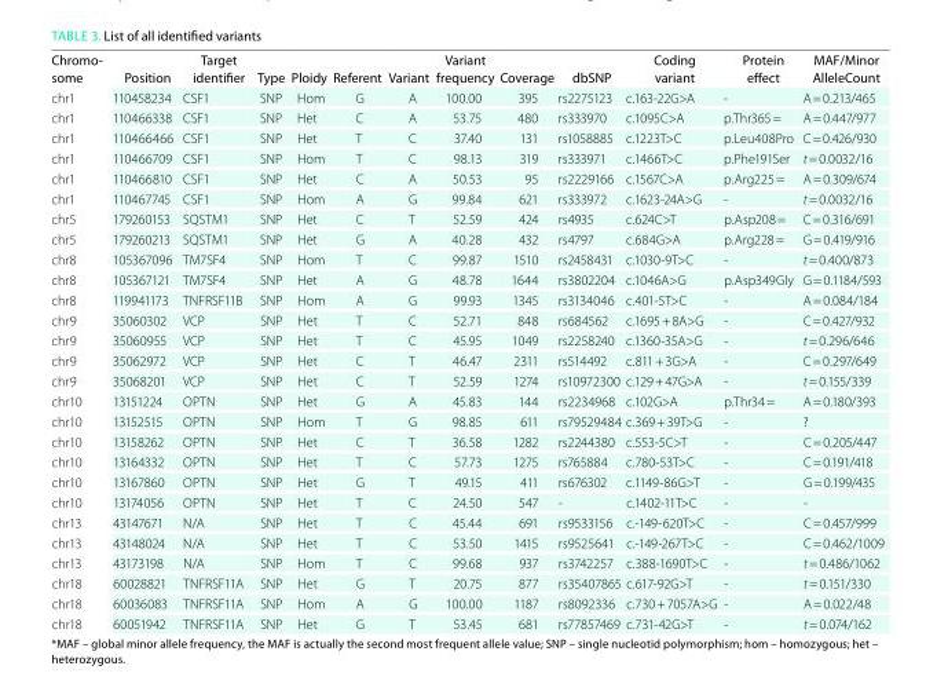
<table><thead><tr><td>Chromo- some</td><td>Position</td><td>target identifier</td><td>type</td><td>Ploidy</td><td>referent</td><td>Variant</td><td>Variant frequency</td><td>Coverage</td><td>dbSnP</td><td>Coding variant</td><td>Protein effect</td><td>maF/minor alleleCount</td></tr></thead><tbody><tr><td>chr1</td><td>110458234</td><td>CSF1</td><td>SNP</td><td>Hom</td><td>G</td><td>A</td><td>100.00</td><td>395</td><td>rs2275123</td><td>c.163-22G&gt;A</td><td>-</td><td>A = 0.213/465</td></tr><tr><td>chr1</td><td>110466338</td><td>CSF1</td><td>SNP</td><td>Het</td><td>C</td><td>A</td><td>53.75</td><td>480</td><td>rs333970</td><td>c.1095C&gt;A</td><td>p.Thr365 =</td><td>A = 0.447/977</td></tr><tr><td>chr1</td><td>110466466</td><td>CSF1</td><td>SNP</td><td>Het</td><td>T</td><td>C</td><td>37.40</td><td>131</td><td>rs1058885</td><td>c.1223T&gt;C</td><td>p.Leu408Pro</td><td>C = 0.426/930</td></tr><tr><td>chr1</td><td>110466709</td><td>CSF1</td><td>SNP</td><td>Hom</td><td>T</td><td>C</td><td>98.13</td><td>319</td><td>rs333971</td><td>c.1466T&gt;C</td><td>p.Phe191Ser</td><td>t = 0.0032/16</td></tr><tr><td>chr1</td><td>110466810</td><td>CSF1</td><td>SNP</td><td>Het</td><td>C</td><td>A</td><td>50.53</td><td>95</td><td>rs2229166</td><td>c.1567C&gt;A</td><td>p.Arg225 =</td><td>A = 0.309/674</td></tr><tr><td>chr1</td><td>110467745</td><td>CSF1</td><td>SNP</td><td>Hom</td><td>A</td><td>G</td><td>99.84</td><td>621</td><td>rs333972</td><td>c.1623-24A&gt;G</td><td>-</td><td>t = 0.0032/16</td></tr><tr><td>chr5</td><td>179260153</td><td>SQSTM1</td><td>SNP</td><td>Het</td><td>C</td><td>T</td><td>52.59</td><td>424</td><td>rs4935</td><td>c.624C&gt;T</td><td>p.Asp208 =</td><td>C = 0.316/691</td></tr><tr><td>chr5</td><td>179260213</td><td>SQSTM1</td><td>SNP</td><td>Het</td><td>G</td><td>A</td><td>40.28</td><td>432</td><td>rs4797</td><td>c.684G&gt;A</td><td>p.Arg228 =</td><td>G = 0.419/916</td></tr><tr><td>chr8</td><td>105367096</td><td>TM7SF4</td><td>SNP</td><td>Hom</td><td>T</td><td>C</td><td>99.87</td><td>1510</td><td>rs2458431</td><td>c.1030-9T&gt;C</td><td>-</td><td>t = 0.400/873</td></tr><tr><td>chr8</td><td>105367121</td><td>TM7SF4</td><td>SNP</td><td>Het</td><td>A</td><td>G</td><td>48.78</td><td>1644</td><td>rs3802204</td><td>c.1046A&gt;G</td><td>p.Asp349Gly</td><td>G = 0.1184/593</td></tr><tr><td>chr8</td><td>119941173</td><td>TNFRSF11B</td><td>SNP</td><td>Hom</td><td>A</td><td>G</td><td>99.93</td><td>1345</td><td>rs3134046</td><td>c.401-5T&gt;C</td><td>-</td><td>A = 0.084/184</td></tr><tr><td>chr9</td><td>35060302</td><td>VCP</td><td>SNP</td><td>Het</td><td>T</td><td>C</td><td>52.71</td><td>848</td><td>rs684562</td><td>c.1695 + 8A&gt;G</td><td>-</td><td>C = 0.427/932</td></tr><tr><td>chr9</td><td>35060955</td><td>VCP</td><td>SNP</td><td>Het</td><td>T</td><td>C</td><td>45.95</td><td>1049</td><td>rs2258240</td><td>c.1360-35A&gt;G</td><td>-</td><td>t = 0.296/646</td></tr><tr><td>chr9</td><td>35062972</td><td>VCP</td><td>SNP</td><td>Het</td><td>C</td><td>T</td><td>46.47</td><td>2311</td><td>rs514492</td><td>c.811 + 3G&gt;A</td><td>-</td><td>C = 0.297/649</td></tr><tr><td>chr9</td><td>35068201</td><td>VCP</td><td>SNP</td><td>Het</td><td>C</td><td>T</td><td>52.59</td><td>1274</td><td>rs10972300</td><td>c.129 + 47G&gt;A</td><td>-</td><td>t = 0.155/339</td></tr><tr><td>chr10</td><td>13151224</td><td>OPTN</td><td>SNP</td><td>Het</td><td>G</td><td>A</td><td>45.83</td><td>144</td><td>rs2234968</td><td>c.102G&gt;A</td><td>p.Thr34 =</td><td>A = 0.180/393</td></tr><tr><td>chr10</td><td>13152515</td><td>OPTN</td><td>SNP</td><td>Hom</td><td>T</td><td>G</td><td>98.85</td><td>611</td><td>rs79529484</td><td>c.369 + 39T&gt;G</td><td>-</td><td>?</td></tr><tr><td>chr10</td><td>13158262</td><td>OPTN</td><td>SNP</td><td>Het</td><td>C</td><td>T</td><td>36.58</td><td>1282</td><td>rs2244380</td><td>c.553-5C&gt;T</td><td>-</td><td>C = 0.205/447</td></tr><tr><td>chr10</td><td>13164332</td><td>OPTN</td><td>SNP</td><td>Het</td><td>T</td><td>C</td><td>57.73</td><td>1275</td><td>rs765884</td><td>c.780-53T&gt;C</td><td>-</td><td>C = 0.191/418</td></tr><tr><td>chr10</td><td>13167860</td><td>OPTN</td><td>SNP</td><td>Het</td><td>G</td><td>T</td><td>49.15</td><td>411</td><td>rs676302</td><td>c.1149-86G&gt;T</td><td>-</td><td>G = 0.199/435</td></tr><tr><td>chr10</td><td>13174056</td><td>OPTN</td><td>SNP</td><td>Het</td><td>T</td><td>C</td><td>24.50</td><td>547</td><td>-</td><td>c.1402-11T&gt;C</td><td>-</td><td>-</td></tr><tr><td>chr13</td><td>43147671</td><td>N/A</td><td>SNP</td><td>Het</td><td>T</td><td>C</td><td>45.44</td><td>691</td><td>rs9533156</td><td>c.-149-620T&gt;C</td><td>-</td><td>C = 0.457/999</td></tr><tr><td>chr13</td><td>43148024</td><td>N/A</td><td>SNP</td><td>Het</td><td>T</td><td>C</td><td>53.50</td><td>1415</td><td>rs9525641</td><td>c.-149-267T&gt;C</td><td>-</td><td>C = 0.462/1009</td></tr><tr><td>chr13</td><td>43173198</td><td>N/A</td><td>SNP</td><td>Hom</td><td>T</td><td>C</td><td>99.68</td><td>937</td><td>rs3742257</td><td>c.388-1690T&gt;C</td><td>-</td><td>t = 0.486/1062</td></tr><tr><td>chr18</td><td>60028821</td><td>TNFRSF11A</td><td>SNP</td><td>Het</td><td>G</td><td>T</td><td>20.75</td><td>877</td><td>rs35407865</td><td>c.617-92G&gt;T</td><td>-</td><td>t = 0.151/330</td></tr><tr><td>chr18</td><td>60036083</td><td>TNFRSF11A</td><td>SNP</td><td>Hom</td><td>A</td><td>G</td><td>100.00</td><td>1187</td><td>rs8092336</td><td>c.730 + 7057A&gt;G</td><td>-</td><td>A = 0.022/48</td></tr><tr><td>chr18</td><td>60051942</td><td>TNFRSF11A</td><td>SNP</td><td>Het</td><td>G</td><td>T</td><td>53.45</td><td>681</td><td>rs77857469</td><td>c.731-42G&gt;T</td><td>-</td><td>t = 0.074/162</td></tr></tbody></table>